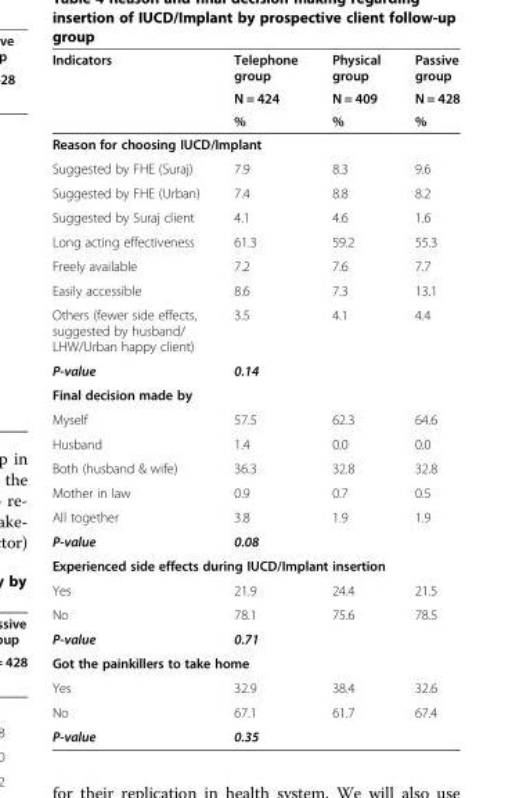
<table><thead><tr><td rowspan="3">Indicators</td><td rowspan="3">Telephone group N = 424 %</td><td rowspan="3">Physical group N = 409 %</td><td rowspan="3">Passive group N = 428 %</td></tr><tr></tr><tr></tr></thead><tbody><tr><td colspan="4">Reason for choosing IUCD/Implant</td></tr><tr><td>Suggested by FHE (Suraj)</td><td>7.9</td><td>8.3</td><td>9.6</td></tr><tr><td>Suggested by FHE (Urban)</td><td>7.4</td><td>8.8</td><td>8.2</td></tr><tr><td>Suggested by Suraj client</td><td>4.1</td><td>4.6</td><td>1.6</td></tr><tr><td>Long acting effectiveness</td><td>61.3</td><td>59.2</td><td>55.3</td></tr><tr><td>Freely available</td><td>7.2</td><td>7.6</td><td>7.7</td></tr><tr><td>Easily accessible</td><td>8.6</td><td>7.3</td><td>13.1</td></tr><tr><td>Others (fewer side effects, suggested by husband/ LHW/Urban happy client)</td><td>3.5</td><td>4.1</td><td>4.4</td></tr><tr><td>P-value</td><td colspan="3">0.14</td></tr><tr><td colspan="4">Final decision made by</td></tr><tr><td>Myself</td><td>57.5</td><td>62.3</td><td>64.6</td></tr><tr><td>Husband</td><td>1.4</td><td>0.0</td><td>0.0</td></tr><tr><td>Both (husband &amp; wife)</td><td>36.3</td><td>32.8</td><td>32.8</td></tr><tr><td>Mother in law</td><td>0.9</td><td>0.7</td><td>0.5</td></tr><tr><td>All together</td><td>3.8</td><td>1.9</td><td>1.9</td></tr><tr><td>P-value</td><td colspan="3">0.08</td></tr><tr><td colspan="4">Experienced side effects during IUCD/Implant insertion</td></tr><tr><td>Yes</td><td>21.9</td><td>24.4</td><td>21.5</td></tr><tr><td>No</td><td>78.1</td><td>75.6</td><td>78.5</td></tr><tr><td>P-value</td><td colspan="3">0.71</td></tr><tr><td colspan="4">Got the painkillers to take home</td></tr><tr><td>Yes</td><td>32.9</td><td>38.4</td><td>32.6</td></tr><tr><td>No</td><td>67.1</td><td>61.7</td><td>67.4</td></tr><tr><td>P-value</td><td colspan="3">0.35</td></tr></tbody></table>